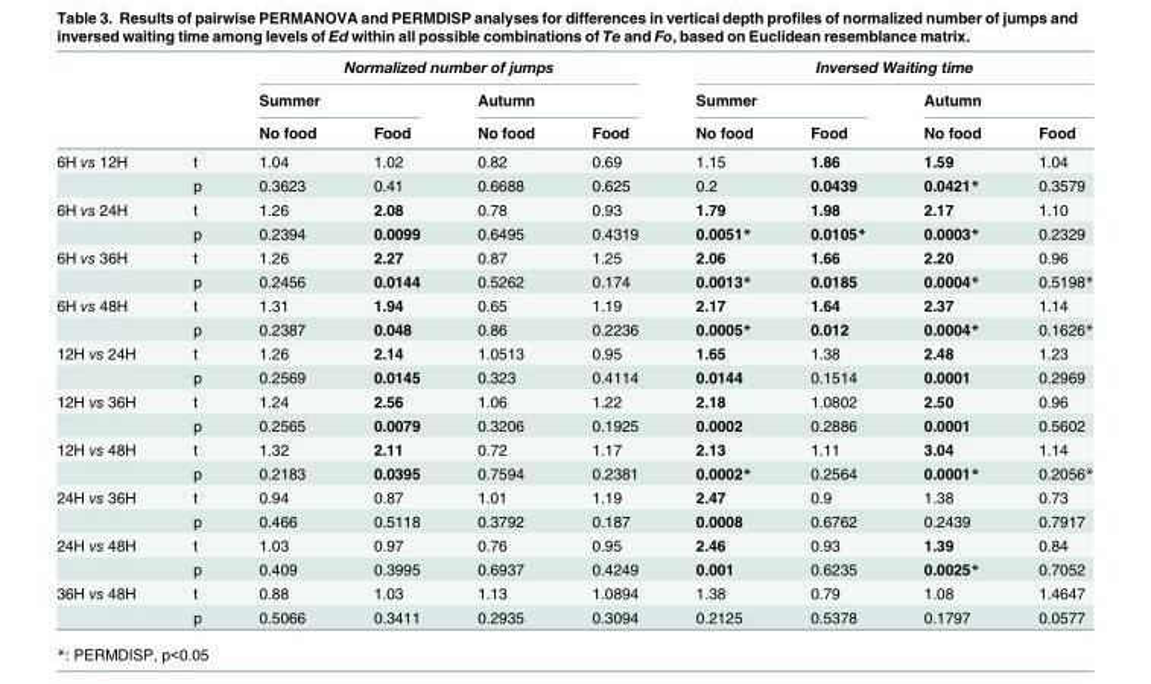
<table><thead><tr><td rowspan="3"></td><td rowspan="3"></td><td colspan="4">Normalized number of jumps</td><td colspan="4">Inversed Waiting time</td></tr><tr><td colspan="2">Summer</td><td colspan="2">Autumn</td><td colspan="2">Summer</td><td colspan="2">Autumn</td></tr><tr><td>No food</td><td>Food</td><td>No food</td><td>Food</td><td>No food</td><td>Food</td><td>No food</td><td>Food</td></tr></thead><tbody><tr><td rowspan="2">6H vs 12H</td><td>t</td><td>1.04</td><td>1.02</td><td>0.82</td><td>0.69</td><td>1.15</td><td>1.86</td><td>1.59</td><td>1.04</td></tr><tr><td>p</td><td>0.3623</td><td>0.41</td><td>0.6688</td><td>0.625</td><td>0.2</td><td>0.0439</td><td>0.0421*</td><td>0.3579</td></tr><tr><td rowspan="2">6H vs 24H</td><td>t</td><td>1.26</td><td>2.08</td><td>0.78</td><td>0.93</td><td>1.79</td><td>1.98</td><td>2.17</td><td>1.10</td></tr><tr><td>p</td><td>0.2394</td><td>0.0099</td><td>0.6495</td><td>0.4319</td><td>0.0051*</td><td>0.0105*</td><td>0.0003*</td><td>0.2329</td></tr><tr><td rowspan="2">6H vs 36H</td><td>t</td><td>1.26</td><td>2.27</td><td>0.87</td><td>1.25</td><td>2.06</td><td>1.66</td><td>2.20</td><td>0.96</td></tr><tr><td>p</td><td>0.2456</td><td>0.0144</td><td>0.5262</td><td>0.174</td><td>0.0013*</td><td>0.0185</td><td>0.0004*</td><td>0.5198*</td></tr><tr><td rowspan="2">6H vs 48H</td><td>t</td><td>1.31</td><td>1.94</td><td>0.65</td><td>1.19</td><td>2.17</td><td>1.64</td><td>2.37</td><td>1.14</td></tr><tr><td>p</td><td>0.2387</td><td>0.048</td><td>0.86</td><td>0.2236</td><td>0.0005*</td><td>0.012</td><td>0.0004*</td><td>0.1626*</td></tr><tr><td rowspan="2">12H vs 24H</td><td>t</td><td>1.26</td><td>2.14</td><td>1.0513</td><td>0.95</td><td>1.65</td><td>1.38</td><td>2.48</td><td>1.23</td></tr><tr><td>p</td><td>0.2569</td><td>0.0145</td><td>0.323</td><td>0.4114</td><td>0.0144</td><td>0.1514</td><td>0.0001</td><td>0.2969</td></tr><tr><td rowspan="2">12H vs 36H</td><td>t</td><td>1.24</td><td>2.56</td><td>1.06</td><td>1.22</td><td>2.18</td><td>1.0802</td><td>2.50</td><td>0.96</td></tr><tr><td>p</td><td>0.2565</td><td>0.0079</td><td>0.3206</td><td>0.1925</td><td>0.0002</td><td>0.2886</td><td>0.0001</td><td>0.5602</td></tr><tr><td rowspan="2">12H vs 48H</td><td>t</td><td>1.32</td><td>2.11</td><td>0.72</td><td>1.17</td><td>2.13</td><td>1.11</td><td>3.04</td><td>1.14</td></tr><tr><td>p</td><td>0.2183</td><td>0.0395</td><td>0.7594</td><td>0.2381</td><td>0.0002*</td><td>0.2564</td><td>0.0001*</td><td>0.2056*</td></tr><tr><td rowspan="2">24H vs 36H</td><td>t</td><td>0.94</td><td>0.87</td><td>1.01</td><td>1.19</td><td>2.47</td><td>0.9</td><td>1.38</td><td>0.73</td></tr><tr><td>p</td><td>0.466</td><td>0.5118</td><td>0.3792</td><td>0.187</td><td>0.0008</td><td>0.6762</td><td>0.2439</td><td>0.7917</td></tr><tr><td rowspan="2">24H vs 48H</td><td>t</td><td>1.03</td><td>0.97</td><td>0.76</td><td>0.95</td><td>2.46</td><td>0.93</td><td>1.39</td><td>0.84</td></tr><tr><td>p</td><td>0.409</td><td>0.3995</td><td>0.6937</td><td>0.4249</td><td>0.001</td><td>0.6235</td><td>0.0025*</td><td>0.7052</td></tr><tr><td rowspan="2">36H vs 48H</td><td>t</td><td>0.88</td><td>1.03</td><td>1.13</td><td>1.0894</td><td>1.38</td><td>0.79</td><td>1.08</td><td>1.4647</td></tr><tr><td>p</td><td>0.5066</td><td>0.3411</td><td>0.2935</td><td>0.3094</td><td>0.2125</td><td>0.5378</td><td>0.1797</td><td>0.0577</td></tr></tbody></table>